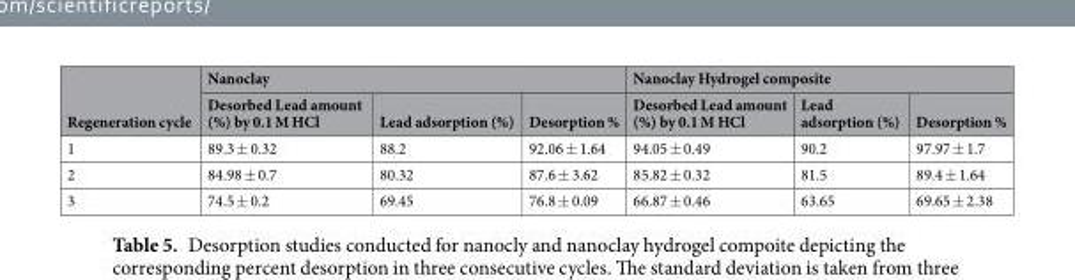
<table><thead><tr><td rowspan="2">Regeneration cycle</td><td colspan="3">Nanoclay</td><td colspan="3">Nanoclay Hydrogel composite</td></tr><tr><td>Desorbed Lead amount (%) by 0.1 M HCl</td><td>Lead adsorption (%)</td><td>Desorption %</td><td>Desorbed Lead amount (%) by 0.1 M HCl</td><td>Lead adsorption (%)</td><td>Desorption %</td></tr></thead><tbody><tr><td>1</td><td>89.3 ± 0.32</td><td>88.2</td><td>92.06 ± 1.64</td><td>94.05 ± 0.49</td><td>90.2</td><td>97.97 ± 1.7</td></tr><tr><td>2</td><td>84.98 ± 0.7</td><td>80.32</td><td>87.6 ± 3.62</td><td>85.82 ± 0.32</td><td>81.5</td><td>89.4 ± 1.64</td></tr><tr><td>3</td><td>74.5 ± 0.2</td><td>69.45</td><td>76.8 ± 0.09</td><td>66.87 ± 0.46</td><td>63.65</td><td>69.65 ± 2.38</td></tr></tbody></table>